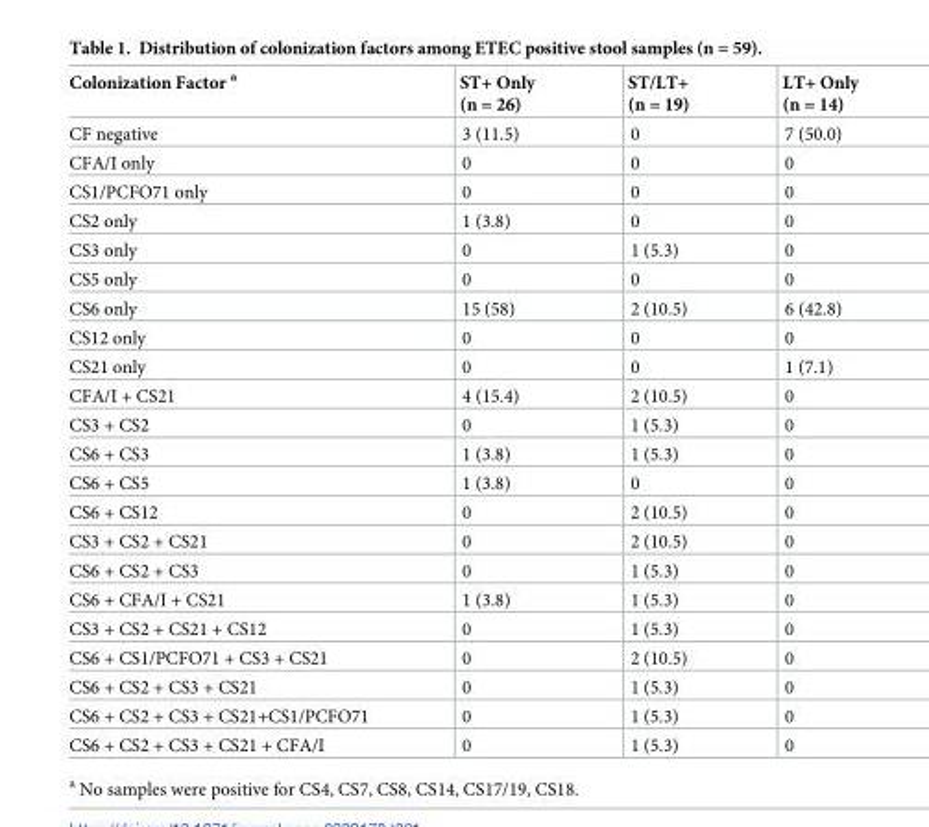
<table><thead><tr><td>Colonization Factor <sup>a</sup></td><td>ST+ Only (n = 26)</td><td>ST/LT+ (n = 19)</td><td>LT+ Only (n = 14)</td></tr></thead><tbody><tr><td>CF negative</td><td>3 (11.5)</td><td>0</td><td>7 (50.0)</td></tr><tr><td>CFA/I only</td><td>0</td><td>0</td><td>0</td></tr><tr><td>CS1/PCFO71 only</td><td>0</td><td>0</td><td>0</td></tr><tr><td>CS2 only</td><td>1 (3.8)</td><td>0</td><td>0</td></tr><tr><td>CS3 only</td><td>0</td><td>1 (5.3)</td><td>0</td></tr><tr><td>CS5 only</td><td>0</td><td>0</td><td>0</td></tr><tr><td>CS6 only</td><td>15 (58)</td><td>2 (10.5)</td><td>6 (42.8)</td></tr><tr><td>CS12 only</td><td>0</td><td>0</td><td>0</td></tr><tr><td>CS21 only</td><td>0</td><td>0</td><td>1 (7.1)</td></tr><tr><td>CFA/I + CS21</td><td>4 (15.4)</td><td>2 (10.5)</td><td>0</td></tr><tr><td>CS3 + CS2</td><td>0</td><td>1 (5.3)</td><td>0</td></tr><tr><td>CS6 + CS3</td><td>1 (3.8)</td><td>1 (5.3)</td><td>0</td></tr><tr><td>CS6 + CS5</td><td>1 (3.8)</td><td>0</td><td>0</td></tr><tr><td>CS6 + CS12</td><td>0</td><td>2 (10.5)</td><td>0</td></tr><tr><td>CS3 + CS2 + CS21</td><td>0</td><td>2 (10.5)</td><td>0</td></tr><tr><td>CS6 + CS2 + CS3</td><td>0</td><td>1 (5.3)</td><td>0</td></tr><tr><td>CS6 + CFA/I + CS21</td><td>1 (3.8)</td><td>1 (5.3)</td><td>0</td></tr><tr><td>CS3 + CS2 + CS21 + CS12</td><td>0</td><td>1 (5.3)</td><td>0</td></tr><tr><td>CS6 + CS1/PCFO71 + CS3 + CS21</td><td>0</td><td>2 (10.5)</td><td>0</td></tr><tr><td>CS6 + CS2 + CS3 + CS21</td><td>0</td><td>1 (5.3)</td><td>0</td></tr><tr><td>CS6 + CS2 + CS3 + CS21+CS1/PCFO71</td><td>0</td><td>1 (5.3)</td><td>0</td></tr><tr><td>CS6 + CS2 + CS3 + CS21 + CFA/I</td><td>0</td><td>1 (5.3)</td><td>0</td></tr></tbody></table>